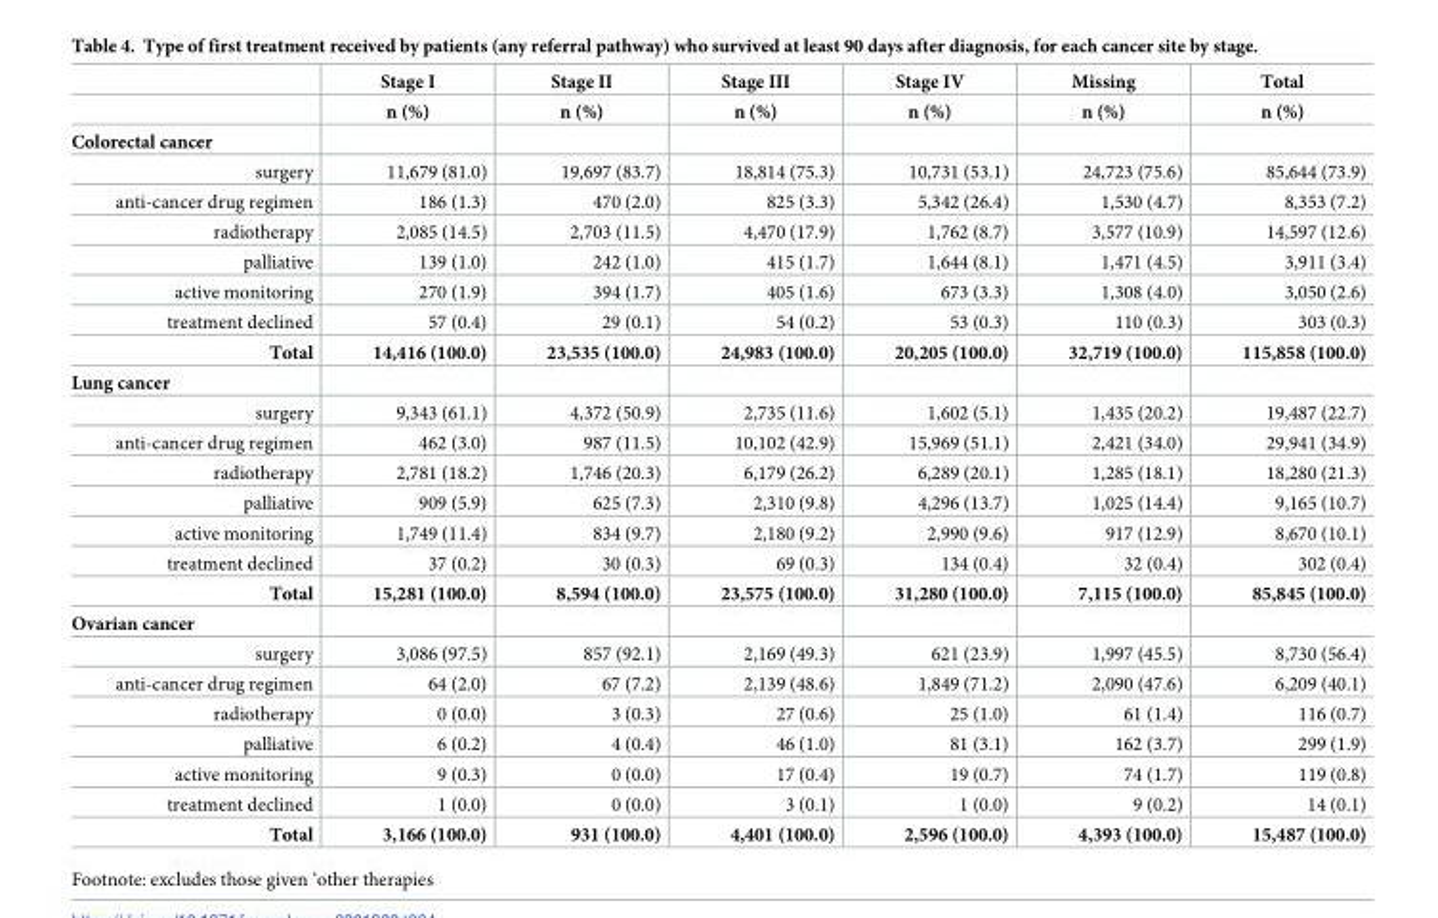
<table><thead><tr><td rowspan="2"></td><td rowspan="2">Stage I n (%)</td><td rowspan="2">Stage II n (%)</td><td rowspan="2">Stage III n (%)</td><td rowspan="2">Stage IV n (%)</td><td rowspan="2">Missing n (%)</td><td rowspan="2">Total n (%)</td></tr><tr></tr></thead><tbody><tr><td colspan="7">Colorectal cancer</td></tr><tr><td>surgery</td><td>11,679 (81.0)</td><td>19,697 (83.7)</td><td>18,814 (75.3)</td><td>10,731 (53.1)</td><td>24,723 (75.6)</td><td>85,644 (73.9)</td></tr><tr><td>anti-cancer drug regimen</td><td>186 (1.3)</td><td>470 (2.0)</td><td>825 (3.3)</td><td>5,342 (26.4)</td><td>1,530 (4.7)</td><td>8,353 (7.2)</td></tr><tr><td>radiotherapy</td><td>2,085 (14.5)</td><td>2,703 (11.5)</td><td>4,470 (17.9)</td><td>1,762 (8.7)</td><td>3,577 (10.9)</td><td>14,597 (12.6)</td></tr><tr><td>palliative</td><td>139 (1.0)</td><td>242 (1.0)</td><td>415 (1.7)</td><td>1,644 (8.1)</td><td>1,471 (4.5)</td><td>3,911 (3.4)</td></tr><tr><td>active monitoring</td><td>270 (1.9)</td><td>394 (1.7)</td><td>405 (1.6)</td><td>673 (3.3)</td><td>1,308 (4.0)</td><td>3,050 (2.6)</td></tr><tr><td>treatment declined</td><td>57 (0.4)</td><td>29 (0.1)</td><td>54 (0.2)</td><td>53 (0.3)</td><td>110 (0.3)</td><td>303 (0.3)</td></tr><tr><td>Total</td><td>14,416 (100.0)</td><td>23,535 (100.0)</td><td>24,983 (100.0)</td><td>20,205 (100.0)</td><td>32,719 (100.0)</td><td>115,858 (100.0)</td></tr><tr><td colspan="7">Lung cancer</td></tr><tr><td>surgery</td><td>9,343 (61.1)</td><td>4,372 (50.9)</td><td>2,735 (11.6)</td><td>1,602 (5.1)</td><td>1,435 (20.2)</td><td>19,487 (22.7)</td></tr><tr><td>anti-cancer drug regimen</td><td>462 (3.0)</td><td>987 (11.5)</td><td>10,102 (42.9)</td><td>15,969 (51.1)</td><td>2,421 (34.0)</td><td>29,941 (34.9)</td></tr><tr><td>radiotherapy</td><td>2,781 (18.2)</td><td>1,746 (20.3)</td><td>6,179 (26.2)</td><td>6,289 (20.1)</td><td>1,285 (18.1)</td><td>18,280 (21.3)</td></tr><tr><td>palliative</td><td>909 (5.9)</td><td>625 (7.3)</td><td>2,310 (9.8)</td><td>4,296 (13.7)</td><td>1,025 (14.4)</td><td>9,165 (10.7)</td></tr><tr><td>active monitoring</td><td>1,749 (11.4)</td><td>834 (9.7)</td><td>2,180 (9.2)</td><td>2,990 (9.6)</td><td>917 (12.9)</td><td>8,670 (10.1)</td></tr><tr><td>treatment declined</td><td>37 (0.2)</td><td>30 (0.3)</td><td>69 (0.3)</td><td>134 (0.4)</td><td>32 (0.4)</td><td>302 (0.4)</td></tr><tr><td>Total</td><td>15,281 (100.0)</td><td>8,594 (100.0)</td><td>23,575 (100.0)</td><td>31,280 (100.0)</td><td>7,115 (100.0)</td><td>85,845 (100.0)</td></tr><tr><td colspan="7">Ovarian cancer</td></tr><tr><td>surgery</td><td>3,086 (97.5)</td><td>857 (92.1)</td><td>2,169 (49.3)</td><td>621 (23.9)</td><td>1,997 (45.5)</td><td>8,730 (56.4)</td></tr><tr><td>anti-cancer drug regimen</td><td>64 (2.0)</td><td>67 (7.2)</td><td>2,139 (48.6)</td><td>1,849 (71.2)</td><td>2,090 (47.6)</td><td>6,209 (40.1)</td></tr><tr><td>radiotherapy</td><td>0 (0.0)</td><td>3 (0.3)</td><td>27 (0.6)</td><td>25 (1.0)</td><td>61 (1.4)</td><td>116 (0.7)</td></tr><tr><td>palliative</td><td>6 (0.2)</td><td>4 (0.4)</td><td>46 (1.0)</td><td>81 (3.1)</td><td>162 (3.7)</td><td>299 (1.9)</td></tr><tr><td>active monitoring</td><td>9 (0.3)</td><td>0 (0.0)</td><td>17 (0.4)</td><td>19 (0.7)</td><td>74 (1.7)</td><td>119 (0.8)</td></tr><tr><td>treatment declined</td><td>1 (0.0)</td><td>0 (0.0)</td><td>3 (0.1)</td><td>1 (0.0)</td><td>9 (0.2)</td><td>14 (0.1)</td></tr><tr><td>Total</td><td>3,166 (100.0)</td><td>931 (100.0)</td><td>4,401 (100.0)</td><td>2,596 (100.0)</td><td>4,393 (100.0)</td><td>15,487 (100.0)</td></tr></tbody></table>